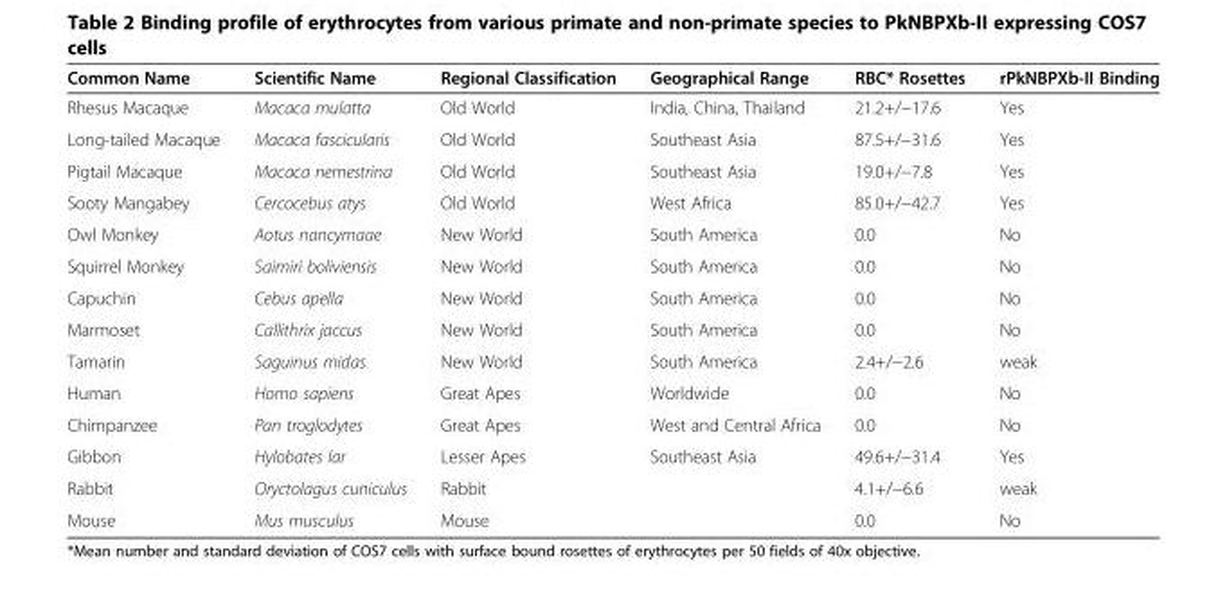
<table><thead><tr><td>Common Name</td><td>Scientific Name</td><td>Regional Classification</td><td>Geographical Range</td><td>RBC* Rosettes</td><td>rPkNBPXb-II Binding</td></tr></thead><tbody><tr><td>Rhesus Macaque</td><td>Macaca mulatta</td><td>Old World</td><td>India, China, Thailand</td><td>21.2+/−17.6</td><td>Yes</td></tr><tr><td>Long-tailed Macaque</td><td>Macaca fascicularis</td><td>Old World</td><td>Southeast Asia</td><td>87.5+/−31.6</td><td>Yes</td></tr><tr><td>Pigtail Macaque</td><td>Macaca nemestrina</td><td>Old World</td><td>Southeast Asia</td><td>19.0+/−7.8</td><td>Yes</td></tr><tr><td>Sooty Mangabey</td><td>Cercocebus atys</td><td>Old World</td><td>West Africa</td><td>85.0+/−42.7</td><td>Yes</td></tr><tr><td>Owl Monkey</td><td>Aotus nancymaae</td><td>New World</td><td>South America</td><td>0.0</td><td>No</td></tr><tr><td>Squirrel Monkey</td><td>Saimiri boliviensis</td><td>New World</td><td>South America</td><td>0.0</td><td>No</td></tr><tr><td>Capuchin</td><td>Cebus apella</td><td>New World</td><td>South America</td><td>0.0</td><td>No</td></tr><tr><td>Marmoset</td><td>Callithrix jaccus</td><td>New World</td><td>South America</td><td>0.0</td><td>No</td></tr><tr><td>Tamarin</td><td>Saguinus midas</td><td>New World</td><td>South America</td><td>2.4+/−2.6</td><td>weak</td></tr><tr><td>Human</td><td>Homo sapiens</td><td>Great Apes</td><td>Worldwide</td><td>0.0</td><td>No</td></tr><tr><td>Chimpanzee</td><td>Pan troglodytes</td><td>Great Apes</td><td>West and Central Africa</td><td>0.0</td><td>No</td></tr><tr><td>Gibbon</td><td>Hylobates lar</td><td>Lesser Apes</td><td>Southeast Asia</td><td>49.6+/−31.4</td><td>Yes</td></tr><tr><td>Rabbit</td><td>Oryctolagus cuniculus</td><td>Rabbit</td><td></td><td>4.1+/−6.6</td><td>weak</td></tr><tr><td>Mouse</td><td>Mus musculus</td><td>Mouse</td><td></td><td>0.0</td><td>No</td></tr></tbody></table>